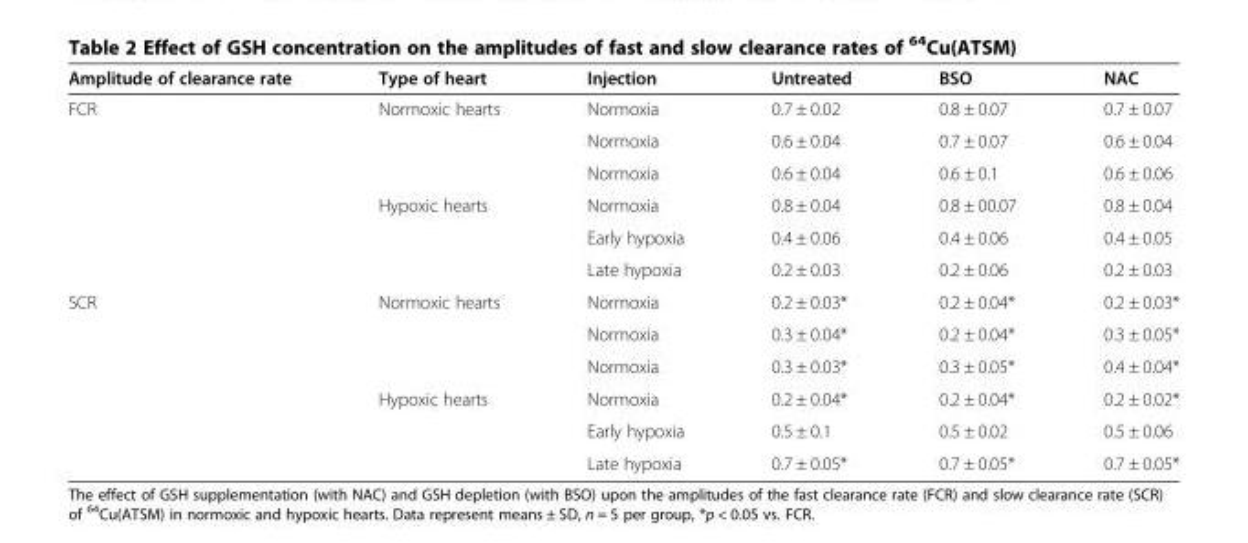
<table><thead><tr><td>Amplitude of clearance rate</td><td>Type of heart</td><td>Injection</td><td>Untreated</td><td>BSO</td><td>NAC</td></tr></thead><tbody><tr><td rowspan="6">FCR</td><td rowspan="3">Normoxic hearts</td><td>Normoxia</td><td>0.7 ± 0.02</td><td>0.8 ± 0.07</td><td>0.7 ± 0.07</td></tr><tr><td>Normoxia</td><td>0.6 ± 0.04</td><td>0.7 ± 0.07</td><td>0.6 ± 0.04</td></tr><tr><td>Normoxia</td><td>0.6 ± 0.04</td><td>0.6 ± 0.1</td><td>0.6 ± 0.06</td></tr><tr><td rowspan="3">Hypoxic hearts</td><td>Normoxia</td><td>0.8 ± 0.04</td><td>0.8 ± 00.07</td><td>0.8 ± 0.04</td></tr><tr><td>Early hypoxia</td><td>0.4 ± 0.06</td><td>0.4 ± 0.06</td><td>0.4 ± 0.05</td></tr><tr><td>Late hypoxia</td><td>0.2 ± 0.03</td><td>0.2 ± 0.06</td><td>0.2 ± 0.03</td></tr><tr><td rowspan="6">SCR</td><td rowspan="3">Normoxic hearts</td><td>Normoxia</td><td>0.2 ± 0.03*</td><td>0.2 ± 0.04*</td><td>0.2 ± 0.03*</td></tr><tr><td>Normoxia</td><td>0.3 ± 0.04*</td><td>0.2 ± 0.04*</td><td>0.3 ± 0.05*</td></tr><tr><td>Normoxia</td><td>0.3 ± 0.03*</td><td>0.3 ± 0.05*</td><td>0.4 ± 0.04*</td></tr><tr><td rowspan="3">Hypoxic hearts</td><td>Normoxia</td><td>0.2 ± 0.04*</td><td>0.2 ± 0.04*</td><td>0.2 ± 0.02*</td></tr><tr><td>Early hypoxia</td><td>0.5 ± 0.1</td><td>0.5 ± 0.02</td><td>0.5 ± 0.06</td></tr><tr><td>Late hypoxia</td><td>0.7 ± 0.05*</td><td>0.7 ± 0.05*</td><td>0.7 ± 0.05*</td></tr></tbody></table>